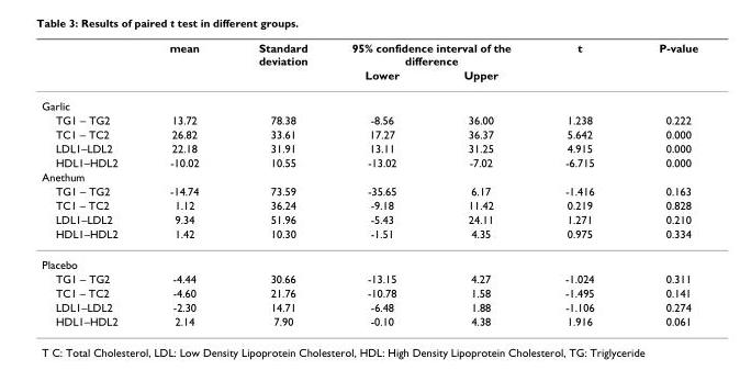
<table><thead><tr><td rowspan="2"></td><td rowspan="2">mean</td><td rowspan="2">Standard deviation</td><td colspan="2">95% confidence interval of the difference</td><td rowspan="2">t</td><td rowspan="2">P-value</td></tr><tr><td>Lower</td><td>Upper</td></tr></thead><tbody><tr><td colspan="7">Garlic</td></tr><tr><td>TG1 – TG2</td><td>13.72</td><td>78.38</td><td>-8.56</td><td>36.00</td><td>1.238</td><td>0.222</td></tr><tr><td>TC1 – TC2</td><td>26.82</td><td>33.61</td><td>17.27</td><td>36.37</td><td>5.642</td><td>0.000</td></tr><tr><td>LDL1–LDL2</td><td>22.18</td><td>31.91</td><td>13.11</td><td>31.25</td><td>4.915</td><td>0.000</td></tr><tr><td>HDL1–HDL2</td><td>-10.02</td><td>10.55</td><td>-13.02</td><td>-7.02</td><td>-6.715</td><td>0.000</td></tr><tr><td colspan="7">Anethum</td></tr><tr><td>TG1 – TG2</td><td>-14.74</td><td>73.59</td><td>-35.65</td><td>6.17</td><td>-1.416</td><td>0.163</td></tr><tr><td>TC1 – TC2</td><td>1.12</td><td>36.24</td><td>-9.18</td><td>11.42</td><td>0.219</td><td>0.828</td></tr><tr><td>LDL1–LDL2</td><td>9.34</td><td>51.96</td><td>-5.43</td><td>24.11</td><td>1.271</td><td>0.210</td></tr><tr><td>HDL1–HDL2</td><td>1.42</td><td>10.30</td><td>-1.51</td><td>4.35</td><td>0.975</td><td>0.334</td></tr><tr><td colspan="7">Placebo</td></tr><tr><td>TG1 – TG2</td><td>-4.44</td><td>30.66</td><td>-13.15</td><td>4.27</td><td>-1.024</td><td>0.311</td></tr><tr><td>TC1 – TC2</td><td>-4.60</td><td>21.76</td><td>-10.78</td><td>1.58</td><td>-1.495</td><td>0.141</td></tr><tr><td>LDL1–LDL2</td><td>-2.30</td><td>14.71</td><td>-6.48</td><td>1.88</td><td>-1.106</td><td>0.274</td></tr><tr><td>HDL1–HDL2</td><td>2.14</td><td>7.90</td><td>-0.10</td><td>4.38</td><td>1.916</td><td>0.061</td></tr></tbody></table>